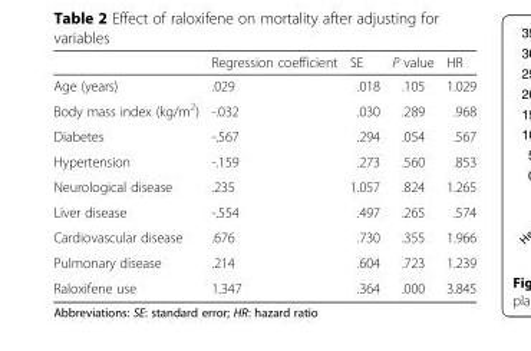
<table><thead><tr><td></td><td>Regression coefficient</td><td>SE</td><td>P value</td><td>HR</td></tr></thead><tbody><tr><td>Age (years)</td><td>.029</td><td>.018</td><td>.105</td><td>1.029</td></tr><tr><td>Body mass index (kg/m<sup>2</sup>)</td><td>-.032</td><td>.030</td><td>.289</td><td>.968</td></tr><tr><td>Diabetes</td><td>-.567</td><td>.294</td><td>.054</td><td>.567</td></tr><tr><td>Hypertension</td><td>-.159</td><td>.273</td><td>.560</td><td>.853</td></tr><tr><td>Neurological disease</td><td>.235</td><td>1.057</td><td>.824</td><td>1.265</td></tr><tr><td>Liver disease</td><td>-.554</td><td>.497</td><td>.265</td><td>.574</td></tr><tr><td>Cardiovascular disease</td><td>.676</td><td>.730</td><td>.355</td><td>1.966</td></tr><tr><td>Pulmonary disease</td><td>.214</td><td>.604</td><td>.723</td><td>1.239</td></tr><tr><td>Raloxifene use</td><td>1.347</td><td>.364</td><td>.000</td><td>3.845</td></tr></tbody></table>